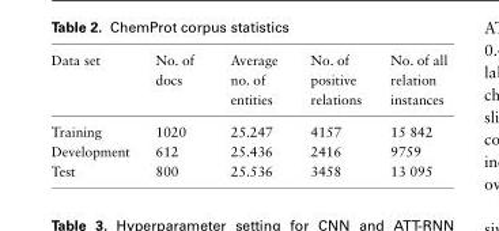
<table><thead><tr><td>Data set</td><td>No. of docs</td><td>Average no. of entities</td><td>No. of positive relations</td><td>No. of all relation instances</td></tr></thead><tbody><tr><td>Training</td><td>1020</td><td>25.247</td><td>4157</td><td>15 842</td></tr><tr><td>Development</td><td>612</td><td>25.436</td><td>2416</td><td>9759</td></tr><tr><td>Test</td><td>800</td><td>25.536</td><td>3458</td><td>13 095</td></tr></tbody></table>